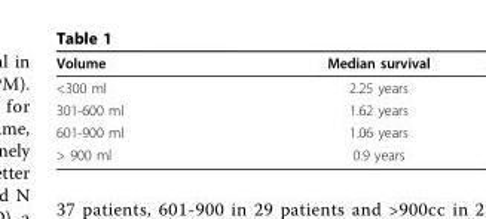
<table><thead><tr><td>Volume</td><td>Median survival</td></tr></thead><tbody><tr><td>&lt;300 ml</td><td>2.25 years</td></tr><tr><td>301-600 ml</td><td>1.62 years</td></tr><tr><td>601-900 ml</td><td>1.06 years</td></tr><tr><td>&gt; 900 ml</td><td>0.9 years</td></tr></tbody></table>